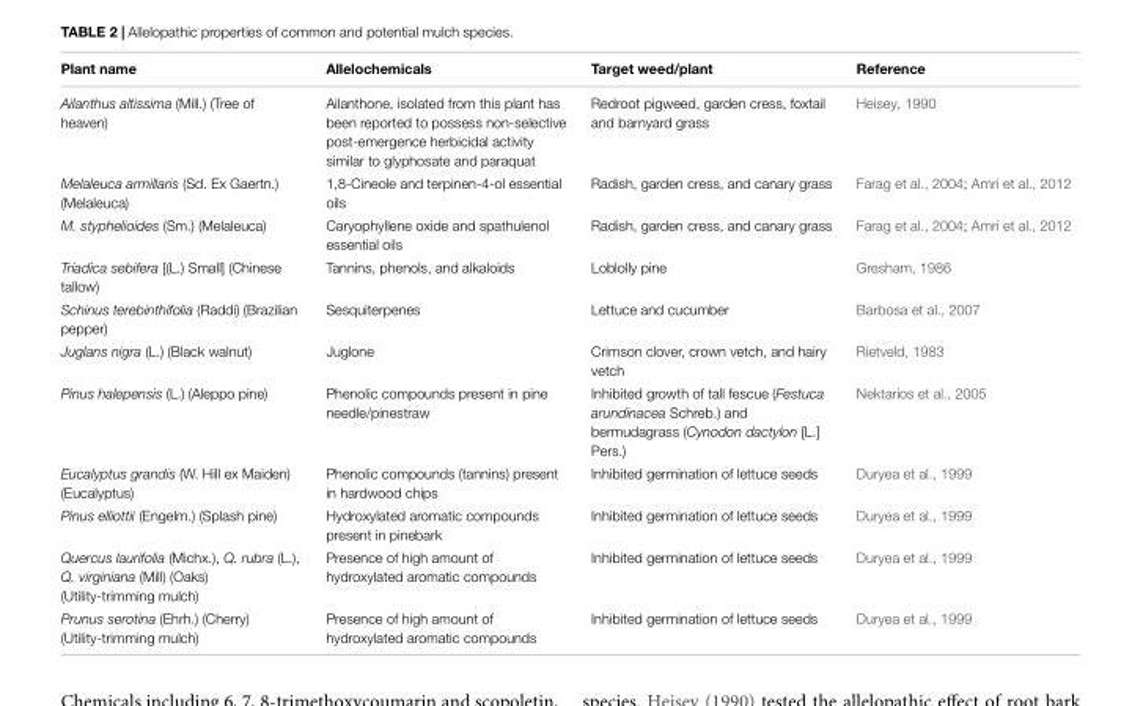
<table><thead><tr><td>Plant name</td><td>Allelochemicals</td><td>Target weed/plant</td><td>Reference</td></tr></thead><tbody><tr><td>Ailanthus altissima (Mill.) (Tree of heaven)</td><td>Ailanthone, isolated from this plant has been reported to possess non-selective post-emergence herbicidal activity similar to glyphosate and paraquat</td><td>Redroot pigweed, garden cress, foxtail and barnyard grass</td><td>Heisey, 1990</td></tr><tr><td>Melaleuca armillaris (Sd. Ex Gaertn.) (Melaleuca)</td><td>1,8-Cineole and terpinen-4-ol essential oils</td><td>Radish, garden cress, and canary grass</td><td>Farag et al., 2004; Amri et al., 2012</td></tr><tr><td>M. styphelioides (Sm.) (Melaleuca)</td><td>Caryophyllene oxide and spathulenol essential oils</td><td>Radish, garden cress, and canary grass</td><td>Farag et al., 2004; Amri et al., 2012</td></tr><tr><td>Triadica sebifera [(L.) Small] (Chinese tallow)</td><td>Tannins, phenols, and alkaloids</td><td>Loblolly pine</td><td>Gresham, 1986</td></tr><tr><td>Schinus terebinthifolia (Raddi) (Brazilian pepper)</td><td>Sesquiterpenes</td><td>Lettuce and cucumber</td><td>Barbosa et al., 2007</td></tr><tr><td>Juglans nigra (L.) (Black walnut)</td><td>Juglone</td><td>Crimson clover, crown vetch, and hairy vetch</td><td>Rietveld, 1983</td></tr><tr><td>Pinus halepensis (L.) (Aleppo pine)</td><td>Phenolic compounds present in pine needle/pinestraw</td><td>Inhibited growth of tall fescue (Festuca arundinacea Schreb.) and bermudagrass (Cynodon dactylon [L.] Pers.)</td><td>Nektarios et al., 2005</td></tr><tr><td>Eucalyptus grandis (W. Hill ex Maiden) (Eucalyptus)</td><td>Phenolic compounds (tannins) present in hardwood chips</td><td>Inhibited germination of lettuce seeds</td><td>Duryea et al., 1999</td></tr><tr><td>Pinus elliottii (Engelm.) (Splash pine)</td><td>Hydroxylated aromatic compounds present in pinebark</td><td>Inhibited germination of lettuce seeds</td><td>Duryea et al., 1999</td></tr><tr><td>Quercus laurifolia (Michx.), Q. rubra (L.), Q. virginiana (Mill) (Oaks) (Utility-trimming mulch)</td><td>Presence of high amount of hydroxylated aromatic compounds</td><td>Inhibited germination of lettuce seeds</td><td>Duryea et al., 1999</td></tr><tr><td>Prunus serotina (Ehrh.) (Cherry) (Utility-trimming mulch)</td><td>Presence of high amount of hydroxylated aromatic compounds</td><td>Inhibited germination of lettuce seeds</td><td>Duryea et al., 1999</td></tr></tbody></table>